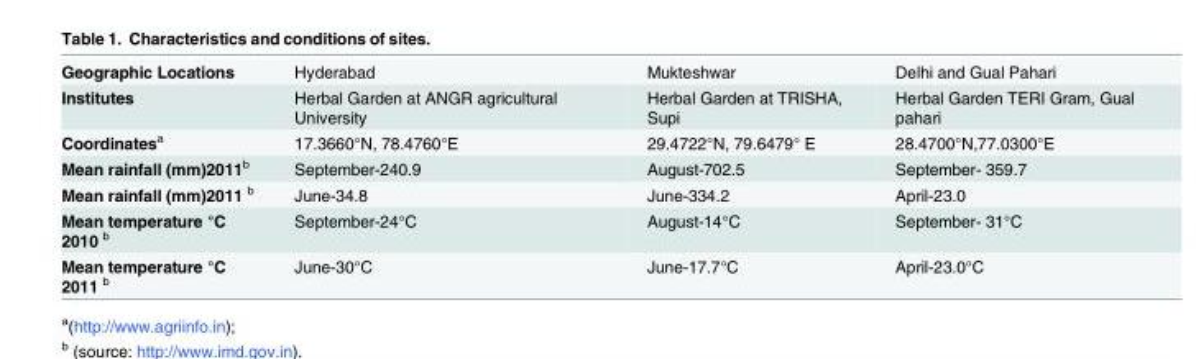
<table><tbody><tr><td>Geographic Locations</td><td>Hyderabad</td><td>Mukteshwar</td><td>Delhi and Gual Pahari</td></tr><tr><td>Institutes</td><td>Herbal Garden at ANGR agricultural University</td><td>Herbal Garden at TRISHA, Supi</td><td>Herbal Garden TERI Gram, Gual pahari</td></tr><tr><td>Coordinates<sup>a</sup></td><td>17.3660°N, 78.4760°E</td><td>29.4722°N, 79.6479° E</td><td>28.4700°N,77.0300°E</td></tr><tr><td>Mean rainfall (mm)2011<sup>b</sup></td><td>September-240.9</td><td>August-702.5</td><td>September- 359.7</td></tr><tr><td>Mean rainfall (mm)2011 <sup>b</sup></td><td>June-34.8</td><td>June-334.2</td><td>April-23.0</td></tr><tr><td>Mean temperature °C 2010 <sup>b</sup></td><td>September-24°C</td><td>August-14°C</td><td>September- 31°C</td></tr><tr><td>Mean temperature °C 2011 <sup>b</sup></td><td>June-30°C</td><td>June-17.7°C</td><td>April-23.0°C</td></tr></tbody></table>